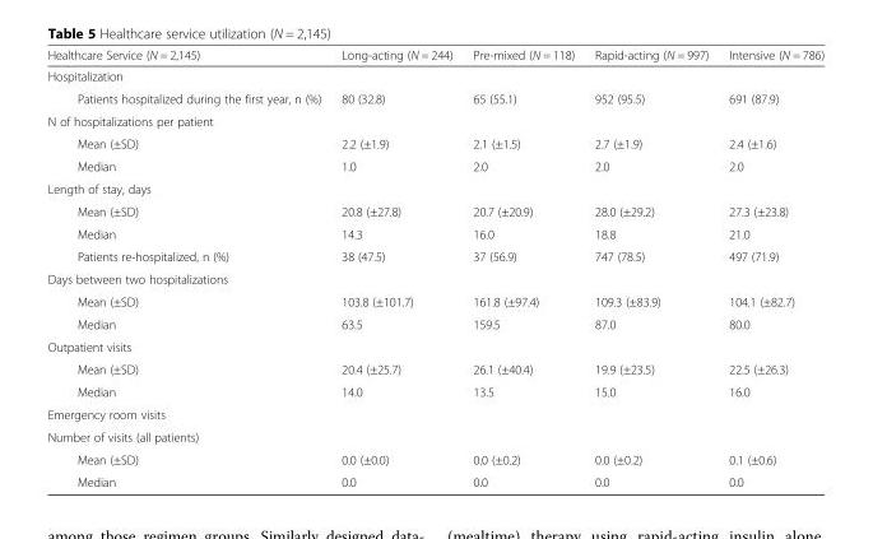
<table><thead><tr><td>Healthcare Service (N = 2,145)</td><td>Long-acting (N = 244)</td><td>Pre-mixed (N = 118)</td><td>Rapid-acting (N = 997)</td><td>Intensive (N = 786)</td></tr></thead><tbody><tr><td colspan="5">Hospitalization</td></tr><tr><td>Patients hospitalized during the first year, n (%)</td><td>80 (32.8)</td><td>65 (55.1)</td><td>952 (95.5)</td><td>691 (87.9)</td></tr><tr><td colspan="5">N of hospitalizations per patient</td></tr><tr><td>Mean (±SD)</td><td>2.2 (±1.9)</td><td>2.1 (±1.5)</td><td>2.7 (±1.9)</td><td>2.4 (±1.6)</td></tr><tr><td>Median</td><td>1.0</td><td>2.0</td><td>2.0</td><td>2.0</td></tr><tr><td colspan="5">Length of stay, days</td></tr><tr><td>Mean (±SD)</td><td>20.8 (±27.8)</td><td>20.7 (±20.9)</td><td>28.0 (±29.2)</td><td>27.3 (±23.8)</td></tr><tr><td>Median</td><td>14.3</td><td>16.0</td><td>18.8</td><td>21.0</td></tr><tr><td>Patients re-hospitalized, n (%)</td><td>38 (47.5)</td><td>37 (56.9)</td><td>747 (78.5)</td><td>497 (71.9)</td></tr><tr><td colspan="5">Days between two hospitalizations</td></tr><tr><td>Mean (±SD)</td><td>103.8 (±101.7)</td><td>161.8 (±97.4)</td><td>109.3 (±83.9)</td><td>104.1 (±82.7)</td></tr><tr><td>Median</td><td>63.5</td><td>159.5</td><td>87.0</td><td>80.0</td></tr><tr><td colspan="5">Outpatient visits</td></tr><tr><td>Mean (±SD)</td><td>20.4 (±25.7)</td><td>26.1 (±40.4)</td><td>19.9 (±23.5)</td><td>22.5 (±26.3)</td></tr><tr><td>Median</td><td>14.0</td><td>13.5</td><td>15.0</td><td>16.0</td></tr><tr><td colspan="5">Emergency room visits</td></tr><tr><td colspan="5">Number of visits (all patients)</td></tr><tr><td>Mean (±SD)</td><td>0.0 (±0.0)</td><td>0.0 (±0.2)</td><td>0.0 (±0.2)</td><td>0.1 (±0.6)</td></tr><tr><td>Median</td><td>0.0</td><td>0.0</td><td>0.0</td><td>0.0</td></tr></tbody></table>